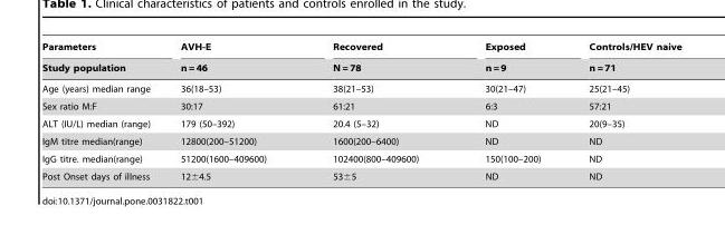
<table><thead><tr><td rowspan="2">Parameters Study population</td><td rowspan="2">AVH-E n = 46</td><td rowspan="2">Recovered N = 78</td><td rowspan="2">Exposed n = 9</td><td rowspan="2">Controls/HEV naive n = 71</td></tr><tr></tr></thead><tbody><tr><td>Age (years) median range</td><td>36(18–53)</td><td>38(21–53)</td><td>30(21–47)</td><td>25(21–45)</td></tr><tr><td>Sex ratio M:F</td><td>30:17</td><td>61:21</td><td>6:3</td><td>57:21</td></tr><tr><td>ALT (IU/L) median (range)</td><td>179 (50–392)</td><td>20.4 (5–32)</td><td>ND</td><td>20(9–35)</td></tr><tr><td>IgM titre median(range)</td><td>12800(200–51200)</td><td>1600(200–6400)</td><td>ND</td><td>ND</td></tr><tr><td>IgG titre. median(range)</td><td>51200(1600–409600)</td><td>102400(800–409600)</td><td>150(100–200)</td><td>ND</td></tr><tr><td>Post Onset days of illness</td><td>12±4.5</td><td>53±5</td><td>ND</td><td>ND</td></tr></tbody></table>